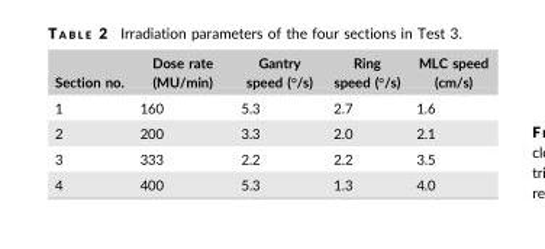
<table><thead><tr><td>Section no.</td><td>Dose rate (MU/min)</td><td>Gantry speed (°/s)</td><td>Ring speed (°/s)</td><td>MLC speed (cm/s)</td></tr></thead><tbody><tr><td>1</td><td>160</td><td>5.3</td><td>2.7</td><td>1.6</td></tr><tr><td>2</td><td>200</td><td>3.3</td><td>2.0</td><td>2.1</td></tr><tr><td>3</td><td>333</td><td>2.2</td><td>2.2</td><td>3.5</td></tr><tr><td>4</td><td>400</td><td>5.3</td><td>1.3</td><td>4.0</td></tr></tbody></table>